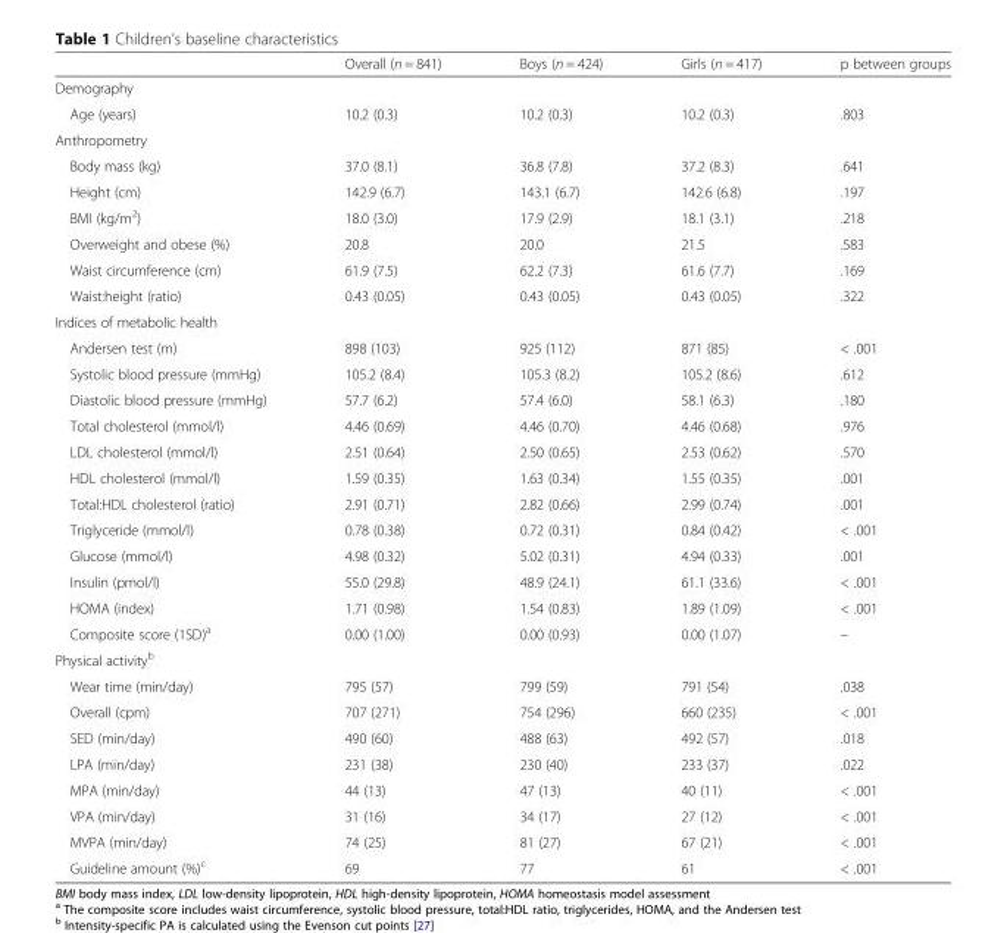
<table><thead><tr><td></td><td>Overall (n = 841)</td><td>Boys (n = 424)</td><td>Girls (n = 417)</td><td>p between groups</td></tr></thead><tbody><tr><td colspan="5">Demography</td></tr><tr><td>Age (years)</td><td>10.2 (0.3)</td><td>10.2 (0.3)</td><td>10.2 (0.3)</td><td>.803</td></tr><tr><td colspan="5">Anthropometry</td></tr><tr><td>Body mass (kg)</td><td>37.0 (8.1)</td><td>36.8 (7.8)</td><td>37.2 (8.3)</td><td>.641</td></tr><tr><td>Height (cm)</td><td>142.9 (6.7)</td><td>143.1 (6.7)</td><td>142.6 (6.8)</td><td>.197</td></tr><tr><td>BMI (kg/m<sup>2</sup>)</td><td>18.0 (3.0)</td><td>17.9 (2.9)</td><td>18.1 (3.1)</td><td>.218</td></tr><tr><td>Overweight and obese (%)</td><td>20.8</td><td>20.0</td><td>21.5</td><td>.583</td></tr><tr><td>Waist circumference (cm)</td><td>61.9 (7.5)</td><td>62.2 (7.3)</td><td>61.6 (7.7)</td><td>.169</td></tr><tr><td>Waist:height (ratio)</td><td>0.43 (0.05)</td><td>0.43 (0.05)</td><td>0.43 (0.05)</td><td>.322</td></tr><tr><td colspan="5">Indices of metabolic health</td></tr><tr><td>Andersen test (m)</td><td>898 (103)</td><td>925 (112)</td><td>871 (85)</td><td>&lt; .001</td></tr><tr><td>Systolic blood pressure (mmHg)</td><td>105.2 (8.4)</td><td>105.3 (8.2)</td><td>105.2 (8.6)</td><td>.612</td></tr><tr><td>Diastolic blood pressure (mmHg)</td><td>57.7 (6.2)</td><td>57.4 (6.0)</td><td>58.1 (6.3)</td><td>.180</td></tr><tr><td>Total cholesterol (mmol/l)</td><td>4.46 (0.69)</td><td>4.46 (0.70)</td><td>4.46 (0.68)</td><td>.976</td></tr><tr><td>LDL cholesterol (mmol/l)</td><td>2.51 (0.64)</td><td>2.50 (0.65)</td><td>2.53 (0.62)</td><td>.570</td></tr><tr><td>HDL cholesterol (mmol/l)</td><td>1.59 (0.35)</td><td>1.63 (0.34)</td><td>1.55 (0.35)</td><td>.001</td></tr><tr><td>Total:HDL cholesterol (ratio)</td><td>2.91 (0.71)</td><td>2.82 (0.66)</td><td>2.99 (0.74)</td><td>.001</td></tr><tr><td>Triglyceride (mmol/l)</td><td>0.78 (0.38)</td><td>0.72 (0.31)</td><td>0.84 (0.42)</td><td>&lt; .001</td></tr><tr><td>Glucose (mmol/l)</td><td>4.98 (0.32)</td><td>5.02 (0.31)</td><td>4.94 (0.33)</td><td>.001</td></tr><tr><td>Insulin (pmol/l)</td><td>55.0 (29.8)</td><td>48.9 (24.1)</td><td>61.1 (33.6)</td><td>&lt; .001</td></tr><tr><td>HOMA (index)</td><td>1.71 (0.98)</td><td>1.54 (0.83)</td><td>1.89 (1.09)</td><td>&lt; .001</td></tr><tr><td>Composite score (1SD)<sup>a</sup></td><td>0.00 (1.00)</td><td>0.00 (0.93)</td><td>0.00 (1.07)</td><td>–</td></tr><tr><td colspan="5">Physical activity<sup>b</sup></td></tr><tr><td>Wear time (min/day)</td><td>795 (57)</td><td>799 (59)</td><td>791 (54)</td><td>.038</td></tr><tr><td>Overall (cpm)</td><td>707 (271)</td><td>754 (296)</td><td>660 (235)</td><td>&lt; .001</td></tr><tr><td>SED (min/day)</td><td>490 (60)</td><td>488 (63)</td><td>492 (57)</td><td>.018</td></tr><tr><td>LPA (min/day)</td><td>231 (38)</td><td>230 (40)</td><td>233 (37)</td><td>.022</td></tr><tr><td>MPA (min/day)</td><td>44 (13)</td><td>47 (13)</td><td>40 (11)</td><td>&lt; .001</td></tr><tr><td>VPA (min/day)</td><td>31 (16)</td><td>34 (17)</td><td>27 (12)</td><td>&lt; .001</td></tr><tr><td>MVPA (min/day)</td><td>74 (25)</td><td>81 (27)</td><td>67 (21)</td><td>&lt; .001</td></tr><tr><td>Guideline amount (%)<sup>c</sup></td><td>69</td><td>77</td><td>61</td><td>&lt; .001</td></tr></tbody></table>